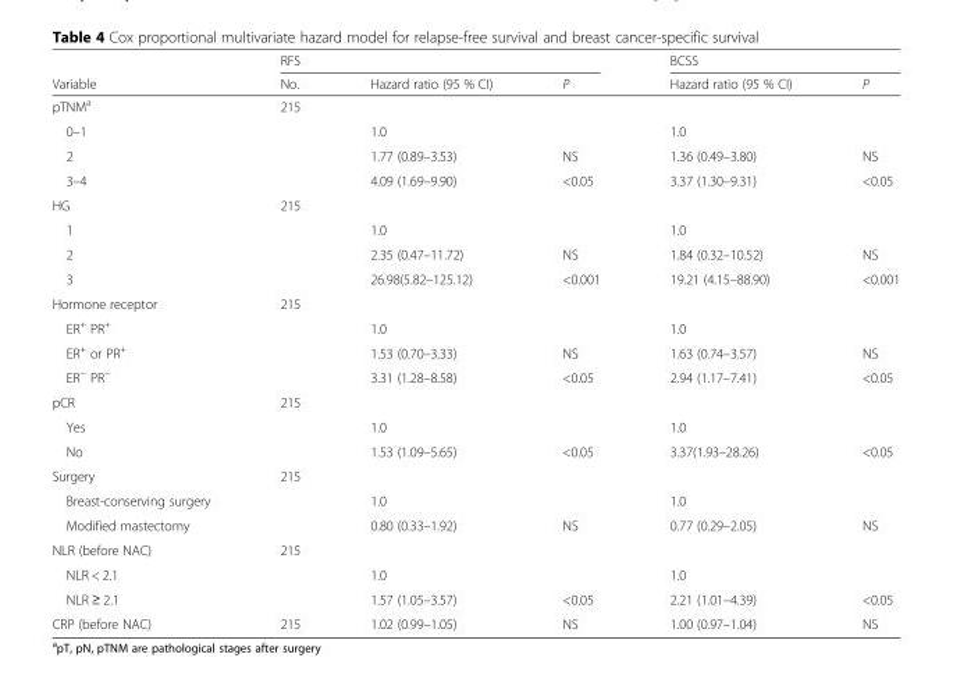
<table><thead><tr><td rowspan="2">Variable</td><td colspan="3">RFS</td><td colspan="2">BCSS</td></tr><tr><td>No.</td><td>Hazard ratio (95 % CI)</td><td>P</td><td>Hazard ratio (95 % CI)</td><td>P</td></tr></thead><tbody><tr><td>pTNM<sup>a</sup></td><td>215</td><td></td><td></td><td></td><td></td></tr><tr><td>0–1</td><td></td><td>1.0</td><td></td><td>1.0</td><td></td></tr><tr><td>2</td><td></td><td>1.77 (0.89–3.53)</td><td>NS</td><td>1.36 (0.49–3.80)</td><td>NS</td></tr><tr><td>3–4</td><td></td><td>4.09 (1.69–9.90)</td><td>&lt;0.05</td><td>3.37 (1.30–9.31)</td><td>&lt;0.05</td></tr><tr><td>HG</td><td>215</td><td></td><td></td><td></td><td></td></tr><tr><td>1</td><td></td><td>1.0</td><td></td><td>1.0</td><td></td></tr><tr><td>2</td><td></td><td>2.35 (0.47–11.72)</td><td>NS</td><td>1.84 (0.32–10.52)</td><td>NS</td></tr><tr><td>3</td><td></td><td>26.98(5.82–125.12)</td><td>&lt;0.001</td><td>19.21 (4.15–88.90)</td><td>&lt;0.001</td></tr><tr><td>Hormone receptor</td><td>215</td><td></td><td></td><td></td><td></td></tr><tr><td>ER<sup>+</sup> PR<sup>+</sup></td><td></td><td>1.0</td><td></td><td>1.0</td><td></td></tr><tr><td>ER<sup>+</sup> or PR<sup>+</sup></td><td></td><td>1.53 (0.70–3.33)</td><td>NS</td><td>1.63 (0.74–3.57)</td><td>NS</td></tr><tr><td>ER<sup>−</sup> PR<sup>−</sup></td><td></td><td>3.31 (1.28–8.58)</td><td>&lt;0.05</td><td>2.94 (1.17–7.41)</td><td>&lt;0.05</td></tr><tr><td>pCR</td><td>215</td><td></td><td></td><td></td><td></td></tr><tr><td>Yes</td><td></td><td>1.0</td><td></td><td>1.0</td><td></td></tr><tr><td>No</td><td></td><td>1.53 (1.09–5.65)</td><td>&lt;0.05</td><td>3.37(1.93–28.26)</td><td>&lt;0.05</td></tr><tr><td>Surgery</td><td>215</td><td></td><td></td><td></td><td></td></tr><tr><td>Breast-conserving surgery</td><td></td><td>1.0</td><td></td><td>1.0</td><td></td></tr><tr><td>Modified mastectomy</td><td></td><td>0.80 (0.33–1.92)</td><td>NS</td><td>0.77 (0.29–2.05)</td><td>NS</td></tr><tr><td>NLR (before NAC)</td><td>215</td><td></td><td></td><td></td><td></td></tr><tr><td>NLR &lt; 2.1</td><td></td><td>1.0</td><td></td><td>1.0</td><td></td></tr><tr><td>NLR ≥ 2.1</td><td></td><td>1.57 (1.05–3.57)</td><td>&lt;0.05</td><td>2.21 (1.01–4.39)</td><td>&lt;0.05</td></tr><tr><td>CRP (before NAC)</td><td>215</td><td>1.02 (0.99–1.05)</td><td>NS</td><td>1.00 (0.97–1.04)</td><td>NS</td></tr></tbody></table>